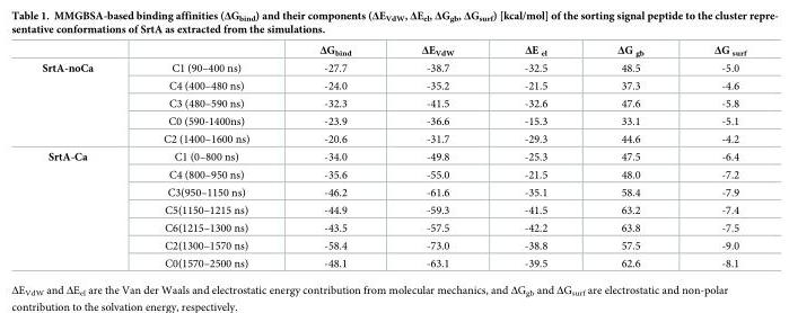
<table><thead><tr><td></td><td></td><td>ΔG<sub>bind</sub></td><td>ΔE<sub>VdW</sub></td><td>ΔE <sub>el</sub></td><td>ΔG <sub>gb</sub></td><td>ΔG <sub>surf</sub></td></tr></thead><tbody><tr><td rowspan="5">SrtA-noCa</td><td>C1 (90–400 ns)</td><td>-27.7</td><td>-38.7</td><td>-32.5</td><td>48.5</td><td>-5.0</td></tr><tr><td>C4 (400–480 ns)</td><td>-24.0</td><td>-35.2</td><td>-21.5</td><td>37.3</td><td>-4.6</td></tr><tr><td>C3 (480–590 ns)</td><td>-32.3</td><td>-41.5</td><td>-32.6</td><td>47.6</td><td>-5.8</td></tr><tr><td>C0 (590-1400ns)</td><td>-23.9</td><td>-36.6</td><td>-15.3</td><td>33.1</td><td>-5.1</td></tr><tr><td>C2 (1400–1600 ns)</td><td>-20.6</td><td>-31.7</td><td>-29.3</td><td>44.6</td><td>-4.2</td></tr><tr><td rowspan="7">SrtA-Ca</td><td>C1 (0–800 ns)</td><td>-34.0</td><td>-49.8</td><td>-25.3</td><td>47.5</td><td>-6.4</td></tr><tr><td>C4 (800–950 ns)</td><td>-35.6</td><td>-55.0</td><td>-21.5</td><td>48.0</td><td>-7.2</td></tr><tr><td>C3(950–1150 ns)</td><td>-46.2</td><td>-61.6</td><td>-35.1</td><td>58.4</td><td>-7.9</td></tr><tr><td>C5(1150–1215 ns)</td><td>-44.9</td><td>-59.3</td><td>-41.5</td><td>63.2</td><td>-7.4</td></tr><tr><td>C6(1215–1300 ns)</td><td>-43.5</td><td>-57.5</td><td>-42.2</td><td>63.8</td><td>-7.5</td></tr><tr><td>C2(1300–1570 ns)</td><td>-58.4</td><td>-73.0</td><td>-38.8</td><td>57.5</td><td>-9.0</td></tr><tr><td>C0(1570–2500 ns)</td><td>-48.1</td><td>-63.1</td><td>-39.5</td><td>62.6</td><td>-8.1</td></tr></tbody></table>